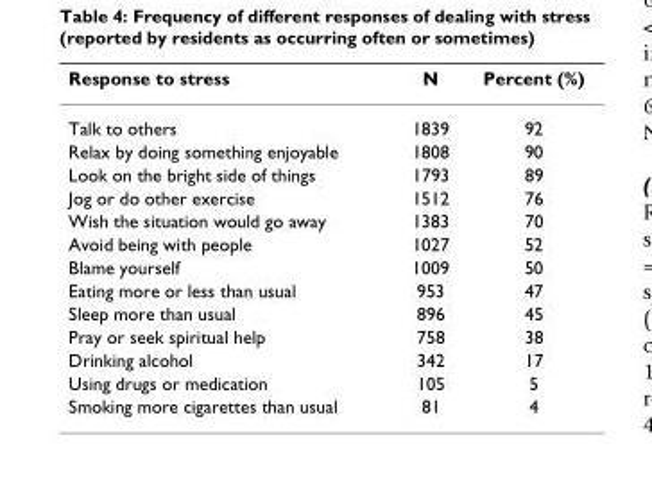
<table><thead><tr><td>Response to stress</td><td>N</td><td>Percent (%)</td></tr></thead><tbody><tr><td>Talk to others</td><td>1839</td><td>92</td></tr><tr><td>Relax by doing something enjoyable</td><td>1808</td><td>90</td></tr><tr><td>Look on the bright side of things</td><td>1793</td><td>89</td></tr><tr><td>Jog or do other exercise</td><td>1512</td><td>76</td></tr><tr><td>Wish the situation would go away</td><td>1383</td><td>70</td></tr><tr><td>Avoid being with people</td><td>1027</td><td>52</td></tr><tr><td>Blame yourself</td><td>1009</td><td>50</td></tr><tr><td>Eating more or less than usual</td><td>953</td><td>47</td></tr><tr><td>Sleep more than usual</td><td>896</td><td>45</td></tr><tr><td>Pray or seek spiritual help</td><td>758</td><td>38</td></tr><tr><td>Drinking alcohol</td><td>342</td><td>17</td></tr><tr><td>Using drugs or medication</td><td>105</td><td>5</td></tr><tr><td>Smoking more cigarettes than usual</td><td>81</td><td>4</td></tr></tbody></table>